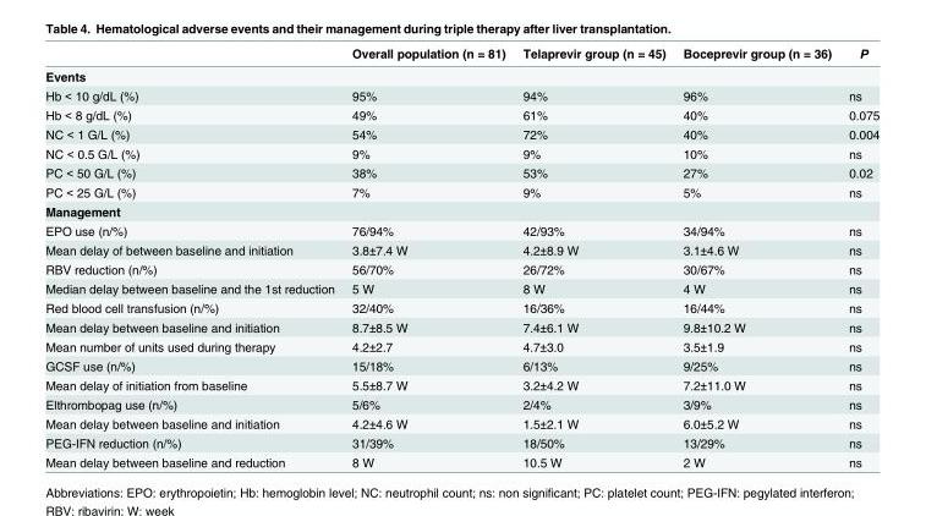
<table><thead><tr><td></td><td>Overall population (n = 81)</td><td>Telaprevir group (n = 45)</td><td>Boceprevir group (n = 36)</td><td>P</td></tr></thead><tbody><tr><td colspan="5">Events</td></tr><tr><td>Hb &lt; 10 g/dL (%)</td><td>95%</td><td>94%</td><td>96%</td><td>ns</td></tr><tr><td>Hb &lt; 8 g/dL (%)</td><td>49%</td><td>61%</td><td>40%</td><td>0.075</td></tr><tr><td>NC &lt; 1 G/L (%)</td><td>54%</td><td>72%</td><td>40%</td><td>0.004</td></tr><tr><td>NC &lt; 0.5 G/L (%)</td><td>9%</td><td>9%</td><td>10%</td><td>ns</td></tr><tr><td>PC &lt; 50 G/L (%)</td><td>38%</td><td>53%</td><td>27%</td><td>0.02</td></tr><tr><td>PC &lt; 25 G/L (%)</td><td>7%</td><td>9%</td><td>5%</td><td>ns</td></tr><tr><td colspan="5">Management</td></tr><tr><td>EPO use (n/%)</td><td>76/94%</td><td>42/93%</td><td>34/94%</td><td>ns</td></tr><tr><td>Mean delay of between baseline and initiation</td><td>3.8±7.4 W</td><td>4.2±8.9 W</td><td>3.1±4.6 W</td><td>ns</td></tr><tr><td>RBV reduction (n/%)</td><td>56/70%</td><td>26/72%</td><td>30/67%</td><td>ns</td></tr><tr><td>Median delay between baseline and the 1st reduction</td><td>5 W</td><td>8 W</td><td>4 W</td><td>ns</td></tr><tr><td>Red blood cell transfusion (n/%)</td><td>32/40%</td><td>16/36%</td><td>16/44%</td><td>ns</td></tr><tr><td>Mean delay between baseline and initiation</td><td>8.7±8.5 W</td><td>7.4±6.1 W</td><td>9.8±10.2 W</td><td>ns</td></tr><tr><td>Mean number of units used during therapy</td><td>4.2±2.7</td><td>4.7±3.0</td><td>3.5±1.9</td><td>ns</td></tr><tr><td>GCSF use (n/%)</td><td>15/18%</td><td>6/13%</td><td>9/25%</td><td>ns</td></tr><tr><td>Mean delay of initiation from baseline</td><td>5.5±8.7 W</td><td>3.2±4.2 W</td><td>7.2±11.0 W</td><td>ns</td></tr><tr><td>Elthrombopag use (n/%)</td><td>5/6%</td><td>2/4%</td><td>3/9%</td><td>ns</td></tr><tr><td>Mean delay between baseline and initiation</td><td>4.2±4.6 W</td><td>1.5±2.1 W</td><td>6.0±5.2 W</td><td>ns</td></tr><tr><td>PEG-IFN reduction (n/%)</td><td>31/39%</td><td>18/50%</td><td>13/29%</td><td>ns</td></tr><tr><td>Mean delay between baseline and reduction</td><td>8 W</td><td>10.5 W</td><td>2 W</td><td>ns</td></tr></tbody></table>